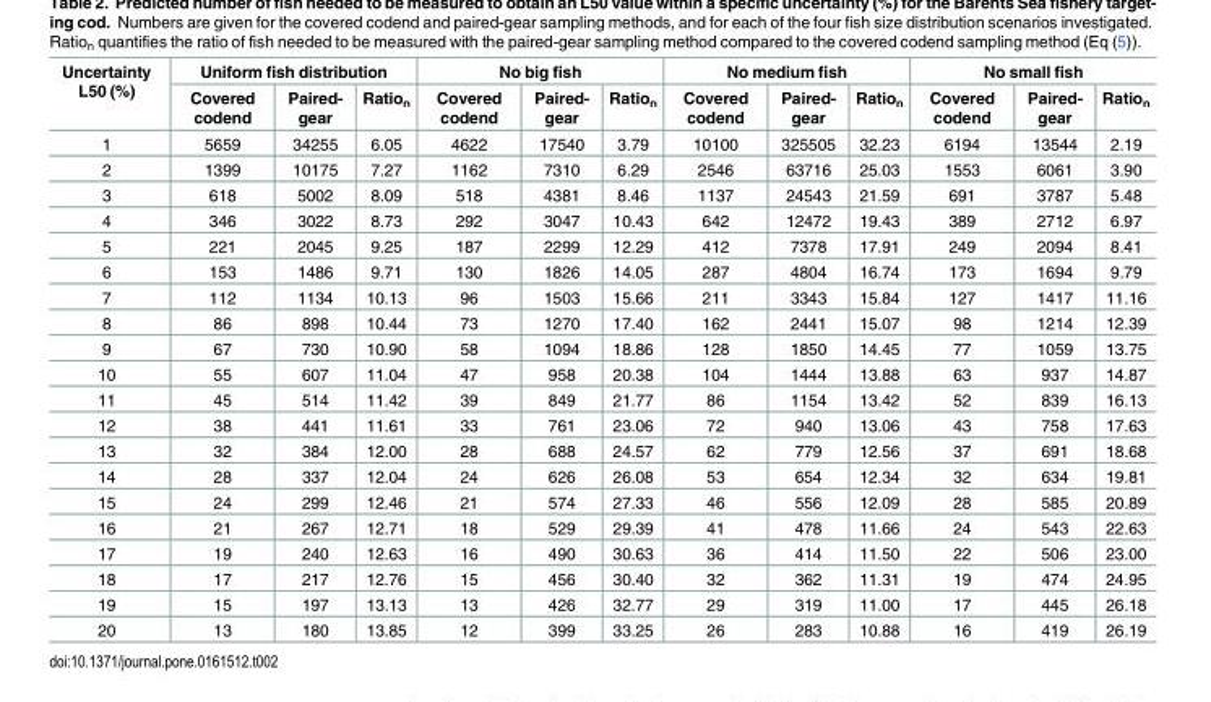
<table><thead><tr><td rowspan="2">Uncertainty L50 (%)</td><td colspan="3">Uniform fish distribution</td><td colspan="3">No big fish</td><td colspan="3">No medium fish</td><td colspan="3">No small fish</td></tr><tr><td>Covered codend</td><td>Paired- gear</td><td>Ratio<sub>n</sub></td><td>Covered codend</td><td>Paired- gear</td><td>Ratio<sub>n</sub></td><td>Covered codend</td><td>Paired- gear</td><td>Ratio<sub>n</sub></td><td>Covered codend</td><td>Paired- gear</td><td>Ratio<sub>n</sub></td></tr></thead><tbody><tr><td>1</td><td>5659</td><td>34255</td><td>6.05</td><td>4622</td><td>17540</td><td>3.79</td><td>10100</td><td>325505</td><td>32.23</td><td>6194</td><td>13544</td><td>2.19</td></tr><tr><td>2</td><td>1399</td><td>10175</td><td>7.27</td><td>1162</td><td>7310</td><td>6.29</td><td>2546</td><td>63716</td><td>25.03</td><td>1553</td><td>6061</td><td>3.90</td></tr><tr><td>3</td><td>618</td><td>5002</td><td>8.09</td><td>518</td><td>4381</td><td>8.46</td><td>1137</td><td>24543</td><td>21.59</td><td>691</td><td>3787</td><td>5.48</td></tr><tr><td>4</td><td>346</td><td>3022</td><td>8.73</td><td>292</td><td>3047</td><td>10.43</td><td>642</td><td>12472</td><td>19.43</td><td>389</td><td>2712</td><td>6.97</td></tr><tr><td>5</td><td>221</td><td>2045</td><td>9.25</td><td>187</td><td>2299</td><td>12.29</td><td>412</td><td>7378</td><td>17.91</td><td>249</td><td>2094</td><td>8.41</td></tr><tr><td>6</td><td>153</td><td>1486</td><td>9.71</td><td>130</td><td>1826</td><td>14.05</td><td>287</td><td>4804</td><td>16.74</td><td>173</td><td>1694</td><td>9.79</td></tr><tr><td>7</td><td>112</td><td>1134</td><td>10.13</td><td>96</td><td>1503</td><td>15.66</td><td>211</td><td>3343</td><td>15.84</td><td>127</td><td>1417</td><td>11.16</td></tr><tr><td>8</td><td>86</td><td>898</td><td>10.44</td><td>73</td><td>1270</td><td>17.40</td><td>162</td><td>2441</td><td>15.07</td><td>98</td><td>1214</td><td>12.39</td></tr><tr><td>9</td><td>67</td><td>730</td><td>10.90</td><td>58</td><td>1094</td><td>18.86</td><td>128</td><td>1850</td><td>14.45</td><td>77</td><td>1059</td><td>13.75</td></tr><tr><td>10</td><td>55</td><td>607</td><td>11.04</td><td>47</td><td>958</td><td>20.38</td><td>104</td><td>1444</td><td>13.88</td><td>63</td><td>937</td><td>14.87</td></tr><tr><td>11</td><td>45</td><td>514</td><td>11.42</td><td>39</td><td>849</td><td>21.77</td><td>86</td><td>1154</td><td>13.42</td><td>52</td><td>839</td><td>16.13</td></tr><tr><td>12</td><td>38</td><td>441</td><td>11.61</td><td>33</td><td>761</td><td>23.06</td><td>72</td><td>940</td><td>13.06</td><td>43</td><td>758</td><td>17.63</td></tr><tr><td>13</td><td>32</td><td>384</td><td>12.00</td><td>28</td><td>688</td><td>24.57</td><td>62</td><td>779</td><td>12.56</td><td>37</td><td>691</td><td>18.68</td></tr><tr><td>14</td><td>28</td><td>337</td><td>12.04</td><td>24</td><td>626</td><td>26.08</td><td>53</td><td>654</td><td>12.34</td><td>32</td><td>634</td><td>19.81</td></tr><tr><td>15</td><td>24</td><td>299</td><td>12.46</td><td>21</td><td>574</td><td>27.33</td><td>46</td><td>556</td><td>12.09</td><td>28</td><td>585</td><td>20.89</td></tr><tr><td>16</td><td>21</td><td>267</td><td>12.71</td><td>18</td><td>529</td><td>29.39</td><td>41</td><td>478</td><td>11.66</td><td>24</td><td>543</td><td>22.63</td></tr><tr><td>17</td><td>19</td><td>240</td><td>12.63</td><td>16</td><td>490</td><td>30.63</td><td>36</td><td>414</td><td>11.50</td><td>22</td><td>506</td><td>23.00</td></tr><tr><td>18</td><td>17</td><td>217</td><td>12.76</td><td>15</td><td>456</td><td>30.40</td><td>32</td><td>362</td><td>11.31</td><td>19</td><td>474</td><td>24.95</td></tr><tr><td>19</td><td>15</td><td>197</td><td>13.13</td><td>13</td><td>426</td><td>32.77</td><td>29</td><td>319</td><td>11.00</td><td>17</td><td>445</td><td>26.18</td></tr><tr><td>20</td><td>13</td><td>180</td><td>13.85</td><td>12</td><td>399</td><td>33.25</td><td>26</td><td>283</td><td>10.88</td><td>16</td><td>419</td><td>26.19</td></tr></tbody></table>